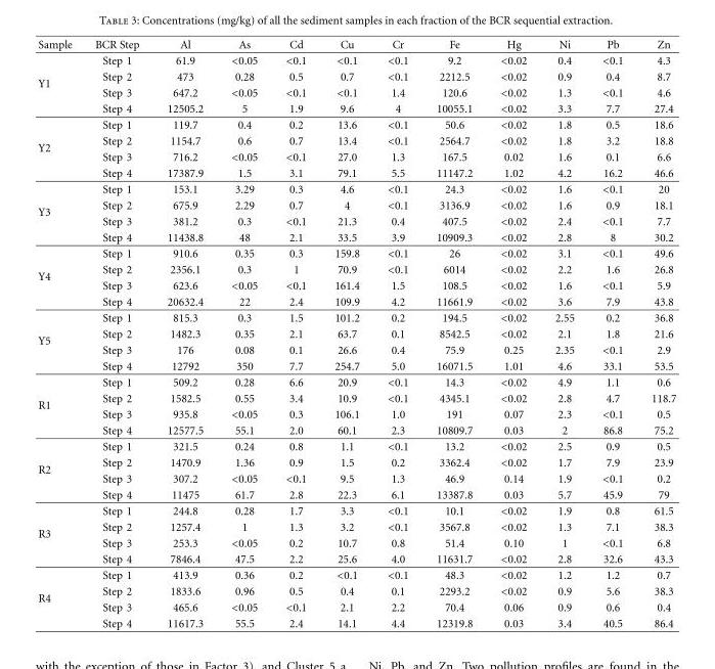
<table><thead><tr><td>Sample</td><td>BCR Step</td><td>Al</td><td>As</td><td>Cd</td><td>Cu</td><td>Cr</td><td>Fe</td><td>Hg</td><td>Ni</td><td>Pb</td><td>Zn</td></tr></thead><tbody><tr><td rowspan="4">Y1</td><td>Step 1</td><td>61.9</td><td>&lt;0.05</td><td>&lt;0.1</td><td>&lt;0.1</td><td>&lt;0.1</td><td>9.2</td><td>&lt;0.02</td><td>0.4</td><td>&lt;0.1</td><td>4.3</td></tr><tr><td>Step 2</td><td>473</td><td>0.28</td><td>0.5</td><td>0.7</td><td>&lt;0.1</td><td>2212.5</td><td>&lt;0.02</td><td>0.9</td><td>0.4</td><td>8.7</td></tr><tr><td>Step 3</td><td>647.2</td><td>&lt;0.05</td><td>&lt;0.1</td><td>&lt;0.1</td><td>1.4</td><td>120.6</td><td>&lt;0.02</td><td>1.3</td><td>&lt;0.1</td><td>4.6</td></tr><tr><td>Step 4</td><td>12505.2</td><td>5</td><td>1.9</td><td>9.6</td><td>4</td><td>10055.1</td><td>&lt;0.02</td><td>3.3</td><td>7.7</td><td>27.4</td></tr><tr><td rowspan="4">Y2</td><td>Step 1</td><td>119.7</td><td>0.4</td><td>0.2</td><td>13.6</td><td>&lt;0.1</td><td>50.6</td><td>&lt;0.02</td><td>1.8</td><td>0.5</td><td>18.6</td></tr><tr><td>Step 2</td><td>1154.7</td><td>0.6</td><td>0.7</td><td>13.4</td><td>&lt;0.1</td><td>2564.7</td><td>&lt;0.02</td><td>1.8</td><td>3.2</td><td>18.8</td></tr><tr><td>Step 3</td><td>716.2</td><td>&lt;0.05</td><td>&lt;0.1</td><td>27.0</td><td>1.3</td><td>167.5</td><td>0.02</td><td>1.6</td><td>0.1</td><td>6.6</td></tr><tr><td>Step 4</td><td>17387.9</td><td>1.5</td><td>3.1</td><td>79.1</td><td>5.5</td><td>11147.2</td><td>1.02</td><td>4.2</td><td>16.2</td><td>46.6</td></tr><tr><td rowspan="4">Y3</td><td>Step 1</td><td>153.1</td><td>3.29</td><td>0.3</td><td>4.6</td><td>&lt;0.1</td><td>24.3</td><td>&lt;0.02</td><td>1.6</td><td>&lt;0.1</td><td>20</td></tr><tr><td>Step 2</td><td>675.9</td><td>2.29</td><td>0.7</td><td>4</td><td>&lt;0.1</td><td>3136.9</td><td>&lt;0.02</td><td>1.6</td><td>0.9</td><td>18.1</td></tr><tr><td>Step 3</td><td>381.2</td><td>0.3</td><td>&lt;0.1</td><td>21.3</td><td>0.4</td><td>407.5</td><td>&lt;0.02</td><td>2.4</td><td>&lt;0.1</td><td>7.7</td></tr><tr><td>Step 4</td><td>11438.8</td><td>48</td><td>2.1</td><td>33.5</td><td>3.9</td><td>10909.3</td><td>&lt;0.02</td><td>2.8</td><td>8</td><td>30.2</td></tr><tr><td rowspan="4">Y4</td><td>Step 1</td><td>910.6</td><td>0.35</td><td>0.3</td><td>159.8</td><td>&lt;0.1</td><td>26</td><td>&lt;0.02</td><td>3.1</td><td>&lt;0.1</td><td>49.6</td></tr><tr><td>Step 2</td><td>2356.1</td><td>0.3</td><td>1</td><td>70.9</td><td>&lt;0.1</td><td>6014</td><td>&lt;0.02</td><td>2.2</td><td>1.6</td><td>26.8</td></tr><tr><td>Step 3</td><td>623.6</td><td>&lt;0.05</td><td>&lt;0.1</td><td>161.4</td><td>1.5</td><td>108.5</td><td>&lt;0.02</td><td>1.6</td><td>&lt;0.1</td><td>5.9</td></tr><tr><td>Step 4</td><td>20632.4</td><td>22</td><td>2.4</td><td>109.9</td><td>4.2</td><td>11661.9</td><td>&lt;0.02</td><td>3.6</td><td>7.9</td><td>43.8</td></tr><tr><td rowspan="4">Y5</td><td>Step 1</td><td>815.3</td><td>0.3</td><td>1.5</td><td>101.2</td><td>0.2</td><td>194.5</td><td>&lt;0.02</td><td>2.55</td><td>0.2</td><td>36.8</td></tr><tr><td>Step 2</td><td>1482.3</td><td>0.35</td><td>2.1</td><td>63.7</td><td>0.1</td><td>8542.5</td><td>&lt;0.02</td><td>2.1</td><td>1.8</td><td>21.6</td></tr><tr><td>Step 3</td><td>176</td><td>0.08</td><td>0.1</td><td>26.6</td><td>0.4</td><td>75.9</td><td>0.25</td><td>2.35</td><td>&lt;0.1</td><td>2.9</td></tr><tr><td>Step 4</td><td>12792</td><td>350</td><td>7.7</td><td>254.7</td><td>5.0</td><td>16071.5</td><td>1.01</td><td>4.6</td><td>33.1</td><td>53.5</td></tr><tr><td rowspan="4">R1</td><td>Step 1</td><td>509.2</td><td>0.28</td><td>6.6</td><td>20.9</td><td>&lt;0.1</td><td>14.3</td><td>&lt;0.02</td><td>4.9</td><td>1.1</td><td>0.6</td></tr><tr><td>Step 2</td><td>1582.5</td><td>0.55</td><td>3.4</td><td>10.9</td><td>&lt;0.1</td><td>4345.1</td><td>&lt;0.02</td><td>2.8</td><td>4.7</td><td>118.7</td></tr><tr><td>Step 3</td><td>935.8</td><td>&lt;0.05</td><td>0.3</td><td>106.1</td><td>1.0</td><td>191</td><td>0.07</td><td>2.3</td><td>&lt;0.1</td><td>0.5</td></tr><tr><td>Step 4</td><td>12577.5</td><td>55.1</td><td>2.0</td><td>60.1</td><td>2.3</td><td>10809.7</td><td>0.03</td><td>2</td><td>86.8</td><td>75.2</td></tr><tr><td rowspan="4">R2</td><td>Step 1</td><td>321.5</td><td>0.24</td><td>0.8</td><td>1.1</td><td>&lt;0.1</td><td>13.2</td><td>&lt;0.02</td><td>2.5</td><td>0.9</td><td>0.5</td></tr><tr><td>Step 2</td><td>1470.9</td><td>1.36</td><td>0.9</td><td>1.5</td><td>0.2</td><td>3362.4</td><td>&lt;0.02</td><td>1.7</td><td>7.9</td><td>23.9</td></tr><tr><td>Step 3</td><td>307.2</td><td>&lt;0.05</td><td>&lt;0.1</td><td>9.5</td><td>1.3</td><td>46.9</td><td>0.14</td><td>1.9</td><td>&lt;0.1</td><td>0.2</td></tr><tr><td>Step 4</td><td>11475</td><td>61.7</td><td>2.8</td><td>22.3</td><td>6.1</td><td>13387.8</td><td>0.03</td><td>5.7</td><td>45.9</td><td>79</td></tr><tr><td rowspan="4">R3</td><td>Step 1</td><td>244.8</td><td>0.28</td><td>1.7</td><td>3.3</td><td>&lt;0.1</td><td>10.1</td><td>&lt;0.02</td><td>1.9</td><td>0.8</td><td>61.5</td></tr><tr><td>Step 2</td><td>1257.4</td><td>1</td><td>1.3</td><td>3.2</td><td>&lt;0.1</td><td>3567.8</td><td>&lt;0.02</td><td>1.3</td><td>7.1</td><td>38.3</td></tr><tr><td>Step 3</td><td>253.3</td><td>&lt;0.05</td><td>0.2</td><td>10.7</td><td>0.8</td><td>51.4</td><td>0.10</td><td>1</td><td>&lt;0.1</td><td>6.8</td></tr><tr><td>Step 4</td><td>7846.4</td><td>47.5</td><td>2.2</td><td>25.6</td><td>4.0</td><td>11631.7</td><td>&lt;0.02</td><td>2.8</td><td>32.6</td><td>43.3</td></tr><tr><td rowspan="4">R4</td><td>Step 1</td><td>413.9</td><td>0.36</td><td>0.2</td><td>&lt;0.1</td><td>&lt;0.1</td><td>48.3</td><td>&lt;0.02</td><td>1.2</td><td>1.2</td><td>0.7</td></tr><tr><td>Step 2</td><td>1833.6</td><td>0.96</td><td>0.5</td><td>0.4</td><td>0.1</td><td>2293.2</td><td>&lt;0.02</td><td>0.9</td><td>5.6</td><td>38.3</td></tr><tr><td>Step 3</td><td>465.6</td><td>&lt;0.05</td><td>&lt;0.1</td><td>2.1</td><td>2.2</td><td>70.4</td><td>0.06</td><td>0.9</td><td>0.6</td><td>0.4</td></tr><tr><td>Step 4</td><td>11617.3</td><td>55.5</td><td>2.4</td><td>14.1</td><td>4.4</td><td>12319.8</td><td>0.03</td><td>3.4</td><td>40.5</td><td>86.4</td></tr></tbody></table>